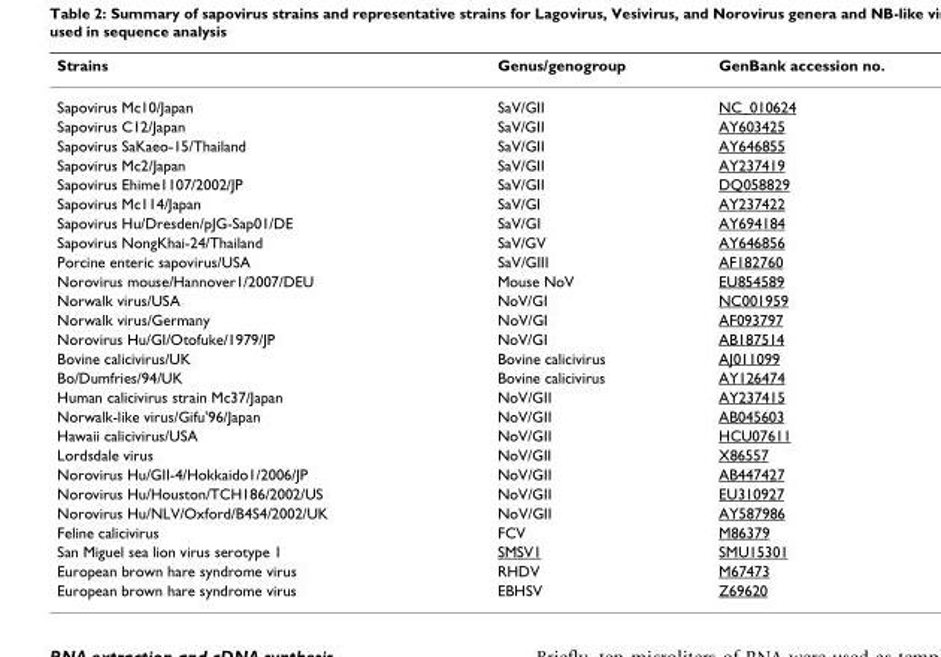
<table><thead><tr><td>Strains</td><td>Genus/genogroup</td><td>GenBank accession no.</td></tr></thead><tbody><tr><td>Sapovirus Mc10/Japan</td><td>SaV/GII</td><td>NC_010624</td></tr><tr><td>Sapovirus C12/Japan</td><td>SaV/GII</td><td>AY603425</td></tr><tr><td>Sapovirus SaKaeo-15/Thailand</td><td>SaV/GII</td><td>AY646855</td></tr><tr><td>Sapovirus Mc2/Japan</td><td>SaV/GII</td><td>AY237419</td></tr><tr><td>Sapovirus Ehime1107/2002/JP</td><td>SaV/GII</td><td>DQ058829</td></tr><tr><td>Sapovirus Mc114/Japan</td><td>SaV/GI</td><td>AY237422</td></tr><tr><td>Sapovirus Hu/Dresden/pJG-Sap01/DE</td><td>SaV/GI</td><td>AY694184</td></tr><tr><td>Sapovirus NongKhai-24/Thailand</td><td>SaV/GV</td><td>AY646856</td></tr><tr><td>Porcine enteric sapovirus/USA</td><td>SaV/GIII</td><td>AF182760</td></tr><tr><td>Norovirus mouse/Hannover1/2007/DEU</td><td>Mouse NoV</td><td>EU854589</td></tr><tr><td>Norwalk virus/USA</td><td>NoV/GI</td><td>NC001959</td></tr><tr><td>Norwalk virus/Germany</td><td>NoV/GI</td><td>AF093797</td></tr><tr><td>Norovirus Hu/GI/Otofuke/1979/JP</td><td>NoV/GI</td><td>AB187514</td></tr><tr><td>Bovine calicivirus/UK</td><td>Bovine calicivirus</td><td>AJ011099</td></tr><tr><td>Bo/Dumfries/94/UK</td><td>Bovine calicivirus</td><td>AY126474</td></tr><tr><td>Human calicivirus strain Mc37/Japan</td><td>NoV/GII</td><td>AY237415</td></tr><tr><td>Norwalk-like virus/Gifu&#x27;96/Japan</td><td>NoV/GII</td><td>AB045603</td></tr><tr><td>Hawaii calicivirus/USA</td><td>NoV/GII</td><td>HCU07611</td></tr><tr><td>Lordsdale virus</td><td>NoV/GII</td><td>X86557</td></tr><tr><td>Norovirus Hu/GII-4/Hokkaido1/2006/JP</td><td>NoV/GII</td><td>AB447427</td></tr><tr><td>Norovirus Hu/Houston/TCH186/2002/US</td><td>NoV/GII</td><td>EU310927</td></tr><tr><td>Norovirus Hu/NLV/Oxford/B4S4/2002/UK</td><td>NoV/GII</td><td>AY587986</td></tr><tr><td>Feline calicivirus</td><td>FCV</td><td>M86379</td></tr><tr><td>San Miguel sea lion virus serotype 1</td><td>SMSV1</td><td>SMU15301</td></tr><tr><td>European brown hare syndrome virus</td><td>RHDV</td><td>M67473</td></tr><tr><td>European brown hare syndrome virus</td><td>EBHSV</td><td>Z69620</td></tr></tbody></table>